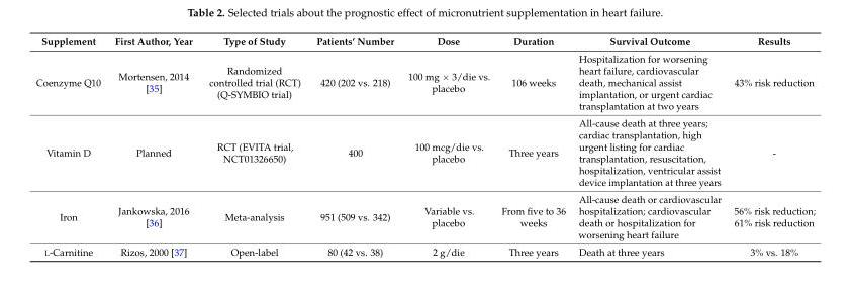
<table><thead><tr><td>Supplement</td><td>First Author, Year</td><td>Type of Study</td><td>Patients’ Number</td><td>Dose</td><td>Duration</td><td>Survival Outcome</td><td>Results</td></tr></thead><tbody><tr><td>Coenzyme Q10</td><td>Mortensen, 2014 [35]</td><td>Randomized controlled trial (RCT) (Q-SYMBIO trial)</td><td>420 (202 vs. 218)</td><td>100 mg ˆ 3/die vs. placebo</td><td>106 weeks</td><td>Hospitalization for worsening heart failure, cardiovascular death, mechanical assist implantation, or urgent cardiac transplantation at two years</td><td>43% risk reduction</td></tr><tr><td>Vitamin D</td><td>Planned</td><td>RCT (EVITA trial, NCT01326650)</td><td>400</td><td>100 mcg/die vs. placebo</td><td>Three years</td><td>All-cause death at three years; cardiac transplantation, high urgent listing for cardiac transplantation, resuscitation, hospitalization, ventricular assist device implantation at three years</td><td>-</td></tr><tr><td>Iron</td><td>Jankowska, 2016 [36]</td><td>Meta-analysis</td><td>951 (509 vs. 342)</td><td>Variable vs. placebo</td><td>From five to 36 weeks</td><td>All-cause death or cardiovascular hospitalization; cardiovascular death or hospitalization for worsening heart failure</td><td>56% risk reduction; 61% risk reduction</td></tr><tr><td>L-Carnitine</td><td>Rizos, 2000 [37]</td><td>Open-label</td><td>80 (42 vs. 38)</td><td>2 g/die</td><td>Three years</td><td>Death at three years</td><td>3% vs. 18%</td></tr></tbody></table>